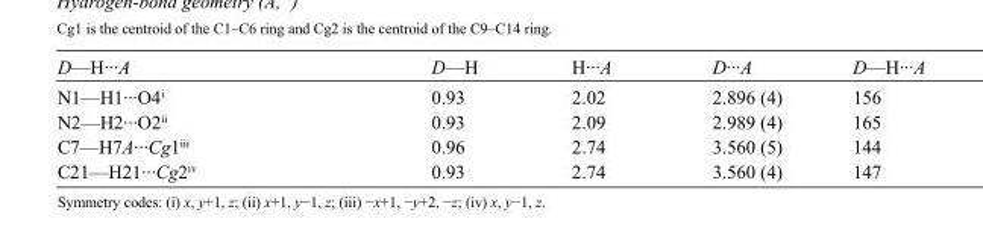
<table><tbody><tr><td>D—H···A</td><td>D—H</td><td>H···A</td><td>D···A</td><td>D—H···A</td></tr><tr><td>N1—H1···O4<sup>i</sup></td><td>0.93</td><td>2.02</td><td>2.896 (4)</td><td>156</td></tr><tr><td>N2—H2···O2<sup>ii</sup></td><td>0.93</td><td>2.09</td><td>2.989 (4)</td><td>165</td></tr><tr><td>C7—H7A···Cg1<sup>iii</sup></td><td>0.96</td><td>2.74</td><td>3.560 (5)</td><td>144</td></tr><tr><td>C21—H21···Cg2<sup>iv</sup></td><td>0.93</td><td>2.74</td><td>3.560 (4)</td><td>147</td></tr></tbody></table>